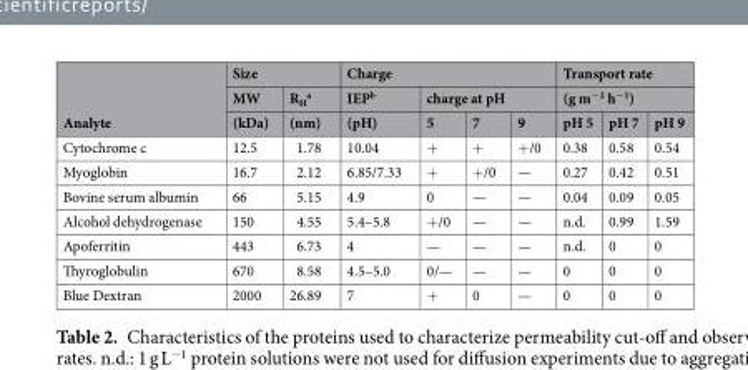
<table><thead><tr><td rowspan="3">Analyte</td><td colspan="2">Size</td><td colspan="4">Charge</td><td rowspan="2" colspan="3">Transport rate (g m<sup>−2</sup> h<sup>−1</sup>)</td></tr><tr><td rowspan="2">MW (kDa)</td><td rowspan="2">R<sub>H</sub> <sup>a</sup> (nm)</td><td rowspan="2">IEP<sup>b</sup> (pH)</td><td colspan="3">charge at pH</td></tr><tr><td>5</td><td>7</td><td>9</td><td>pH 5</td><td>pH 7</td><td>pH 9</td></tr></thead><tbody><tr><td>Cytochrome c</td><td>12.5</td><td>1.78</td><td>10.04</td><td>+</td><td>+</td><td>+/0</td><td>0.38</td><td>0.58</td><td>0.54</td></tr><tr><td>Myoglobin</td><td>16.7</td><td>2.12</td><td>6.85/7.33</td><td>+</td><td>+/0</td><td>—</td><td>0.27</td><td>0.42</td><td>0.51</td></tr><tr><td>Bovine serum albumin</td><td>66</td><td>5.15</td><td>4.9</td><td>0</td><td>—</td><td>—</td><td>0.04</td><td>0.09</td><td>0.05</td></tr><tr><td>Alcohol dehydrogenase</td><td>150</td><td>4.55</td><td>5.4–5.8</td><td>+/0</td><td>—</td><td>—</td><td>n.d.</td><td>0.99</td><td>1.59</td></tr><tr><td>Apoferritin</td><td>443</td><td>6.73</td><td>4</td><td>—</td><td>—</td><td>—</td><td>n.d.</td><td>0</td><td>0</td></tr><tr><td>Thyroglobulin</td><td>670</td><td>8.58</td><td>4.5–5.0</td><td>0/—</td><td>—</td><td>—</td><td>0</td><td>0</td><td>0</td></tr><tr><td>Blue Dextran</td><td>2000</td><td>26.89</td><td>7</td><td>+</td><td>0</td><td>—</td><td>0</td><td>0</td><td>0</td></tr></tbody></table>